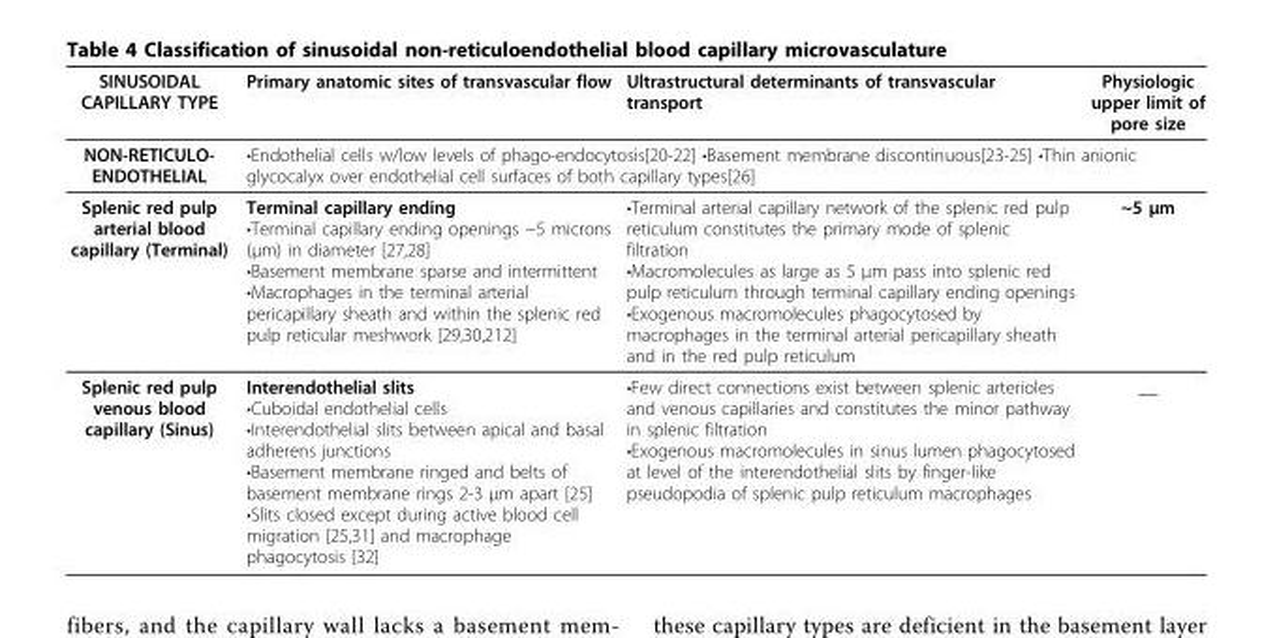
<table><thead><tr><td>SINUSOIDAL CAPILLARY TYPE</td><td>Primary anatomic sites of transvascular flow</td><td>Ultrastructural determinants of transvascular transport</td><td>Physiologic upper limit of pore size</td></tr></thead><tbody><tr><td>NON-RETICULO- ENDOTHELIAL</td><td colspan="3">•Endothelial cells w/low levels of phago-endocytosis[20-22] •Basement membrane discontinuous[23-25] •Thin anionic glycocalyx over endothelial cell surfaces of both capillary types[26]</td></tr><tr><td>Splenic red pulp arterial blood capillary (Terminal)</td><td>Terminal capillary ending •Terminal capillary ending openings ~5 microns (μm) in diameter [27,28] •Basement membrane sparse and intermittent •Macrophages in the terminal arterial pericapillary sheath and within the splenic red pulp reticular meshwork [29,30,212]</td><td>•Terminal arterial capillary network of the splenic red pulp reticulum constitutes the primary mode of splenic filtration •Macromolecules as large as 5 μm pass into splenic red pulp reticulum through terminal capillary ending openings •Exogenous macromolecules phagocytosed by macrophages in the terminal arterial pericapillary sheath and in the red pulp reticulum</td><td>~5 μm</td></tr><tr><td>Splenic red pulp venous blood capillary (Sinus)</td><td>Interendothelial slits •Cuboidal endothelial cells •Interendothelial slits between apical and basal adherens junctions •Basement membrane ringed and belts of basement membrane rings 2-3 μm apart [25] •Slits closed except during active blood cell migration [25,31] and macrophage phagocytosis [32]</td><td>•Few direct connections exist between splenic arterioles and venous capillaries and constitutes the minor pathway in splenic filtration •Exogenous macromolecules in sinus lumen phagocytosed at level of the interendothelial slits by finger-like pseudopodia of splenic pulp reticulum macrophages</td><td>__</td></tr></tbody></table>